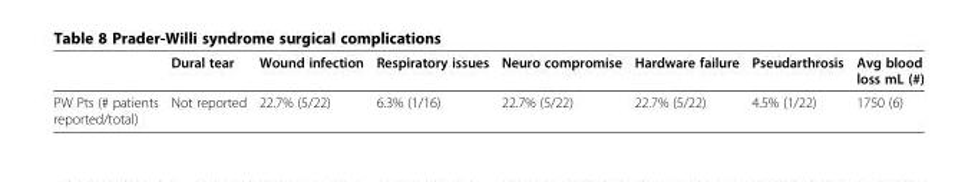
<table><thead><tr><td></td><td>Dural tear</td><td>Wound infection</td><td>Respiratory issues</td><td>Neuro compromise</td><td>Hardware failure</td><td>Pseudarthrosis</td><td>Avg blood loss mL (#)</td></tr></thead><tbody><tr><td>PW Pts (# patients reported/total)</td><td>Not reported</td><td>22.7% (5/22)</td><td>6.3% (1/16)</td><td>22.7% (5/22)</td><td>22.7% (5/22)</td><td>4.5% (1/22)</td><td>1750 (6)</td></tr></tbody></table>